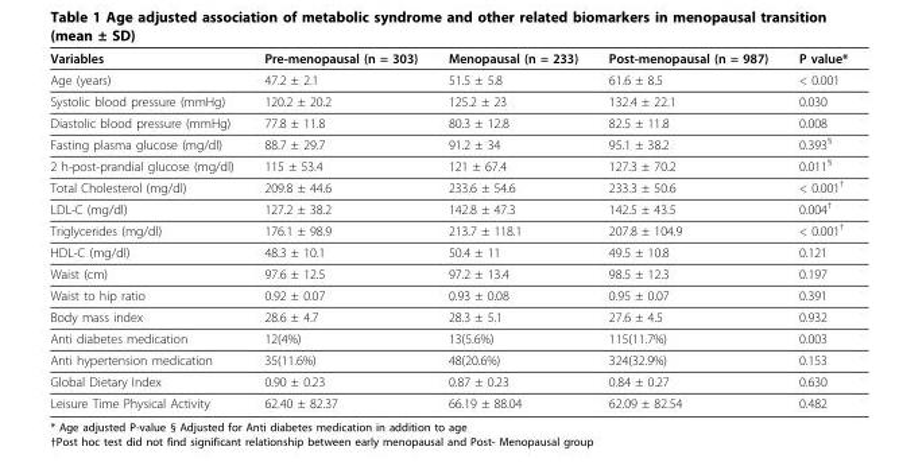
<table><thead><tr><td>Variables</td><td>Pre-menopausal (n = 303)</td><td>Menopausal (n = 233)</td><td>Post-menopausal (n = 987)</td><td>P value*</td></tr></thead><tbody><tr><td>Age (years)</td><td>47.2 ± 2.1</td><td>51.5 ± 5.8</td><td>61.6 ± 8.5</td><td>&lt; 0.001</td></tr><tr><td>Systolic blood pressure (mmHg)</td><td>120.2 ± 20.2</td><td>125.2 ± 23</td><td>132.4 ± 22.1</td><td>0.030</td></tr><tr><td>Diastolic blood pressure (mmHg)</td><td>77.8 ± 11.8</td><td>80.3 ± 12.8</td><td>82.5 ± 11.8</td><td>0.008</td></tr><tr><td>Fasting plasma glucose (mg/dl)</td><td>88.7 ± 29.7</td><td>91.2 ± 34</td><td>95.1 ± 38.2</td><td>0.393<sup>§</sup></td></tr><tr><td>2 h-post-prandial glucose (mg/dl)</td><td>115 ± 53.4</td><td>121 ± 67.4</td><td>127.3 ± 70.2</td><td>0.011<sup>§</sup></td></tr><tr><td>Total Cholesterol (mg/dl)</td><td>209.8 ± 44.6</td><td>233.6 ± 54.6</td><td>233.3 ± 50.6</td><td>&lt; 0.001<sup>†</sup></td></tr><tr><td>LDL-C (mg/dl)</td><td>127.2 ± 38.2</td><td>142.8 ± 47.3</td><td>142.5 ± 43.5</td><td>0.004<sup>†</sup></td></tr><tr><td>Triglycerides (mg/dl)</td><td>176.1 ± 98.9</td><td>213.7 ± 118.1</td><td>207.8 ± 104.9</td><td>&lt; 0.001<sup>†</sup></td></tr><tr><td>HDL-C (mg/dl)</td><td>48.3 ± 10.1</td><td>50.4 ± 11</td><td>49.5 ± 10.8</td><td>0.121</td></tr><tr><td>Waist (cm)</td><td>97.6 ± 12.5</td><td>97.2 ± 13.4</td><td>98.5 ± 12.3</td><td>0.197</td></tr><tr><td>Waist to hip ratio</td><td>0.92 ± 0.07</td><td>0.93 ± 0.08</td><td>0.95 ± 0.07</td><td>0.391</td></tr><tr><td>Body mass index</td><td>28.6 ± 4.7</td><td>28.3 ± 5.1</td><td>27.6 ± 4.5</td><td>0.932</td></tr><tr><td>Anti diabetes medication</td><td>12(4%)</td><td>13(5.6%)</td><td>115(11.7%)</td><td>0.003</td></tr><tr><td>Anti hypertension medication</td><td>35(11.6%)</td><td>48(20.6%)</td><td>324(32.9%)</td><td>0.153</td></tr><tr><td>Global Dietary Index</td><td>0.90 ± 0.23</td><td>0.87 ± 0.23</td><td>0.84 ± 0.27</td><td>0.630</td></tr><tr><td>Leisure Time Physical Activity</td><td>62.40 ± 82.37</td><td>66.19 ± 88.04</td><td>62.09 ± 82.54</td><td>0.482</td></tr></tbody></table>